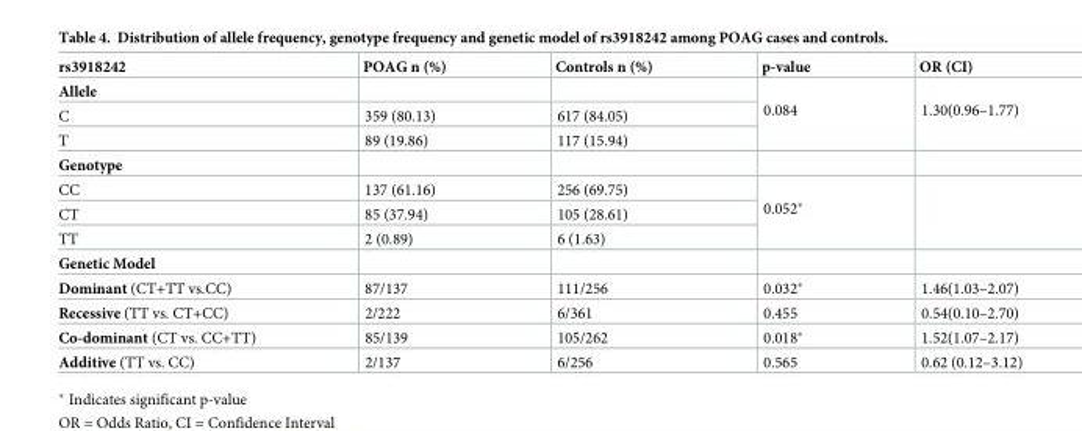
<table><thead><tr><td>rs3918242</td><td>POAG n (%)</td><td>Controls n (%)</td><td>p-value</td><td>OR (CI)</td></tr></thead><tbody><tr><td colspan="3">Allele</td><td rowspan="3">0.084</td><td rowspan="3">1.30(0.96–1.77)</td></tr><tr><td>C</td><td>359 (80.13)</td><td>617 (84.05)</td></tr><tr><td>T</td><td>89 (19.86)</td><td>117 (15.94)</td></tr><tr><td colspan="5">Genotype</td></tr><tr><td>CC</td><td>137 (61.16)</td><td>256 (69.75)</td><td rowspan="3">0.052*</td><td rowspan="3"></td></tr><tr><td>CT</td><td>85 (37.94)</td><td>105 (28.61)</td></tr><tr><td>TT</td><td>2 (0.89)</td><td>6 (1.63)</td></tr><tr><td colspan="5">Genetic Model</td></tr><tr><td>Dominant (CT+TT vs.CC)</td><td>87/137</td><td>111/256</td><td>0.032*</td><td>1.46(1.03–2.07)</td></tr><tr><td>Recessive (TT vs. CT+CC)</td><td>2/222</td><td>6/361</td><td>0.455</td><td>0.54(0.10–2.70)</td></tr><tr><td>Co-dominant (CT vs. CC+TT)</td><td>85/139</td><td>105/262</td><td>0.018*</td><td>1.52(1.07–2.17)</td></tr><tr><td>Additive (TT vs. CC)</td><td>2/137</td><td>6/256</td><td>0.565</td><td>0.62 (0.12–3.12)</td></tr></tbody></table>